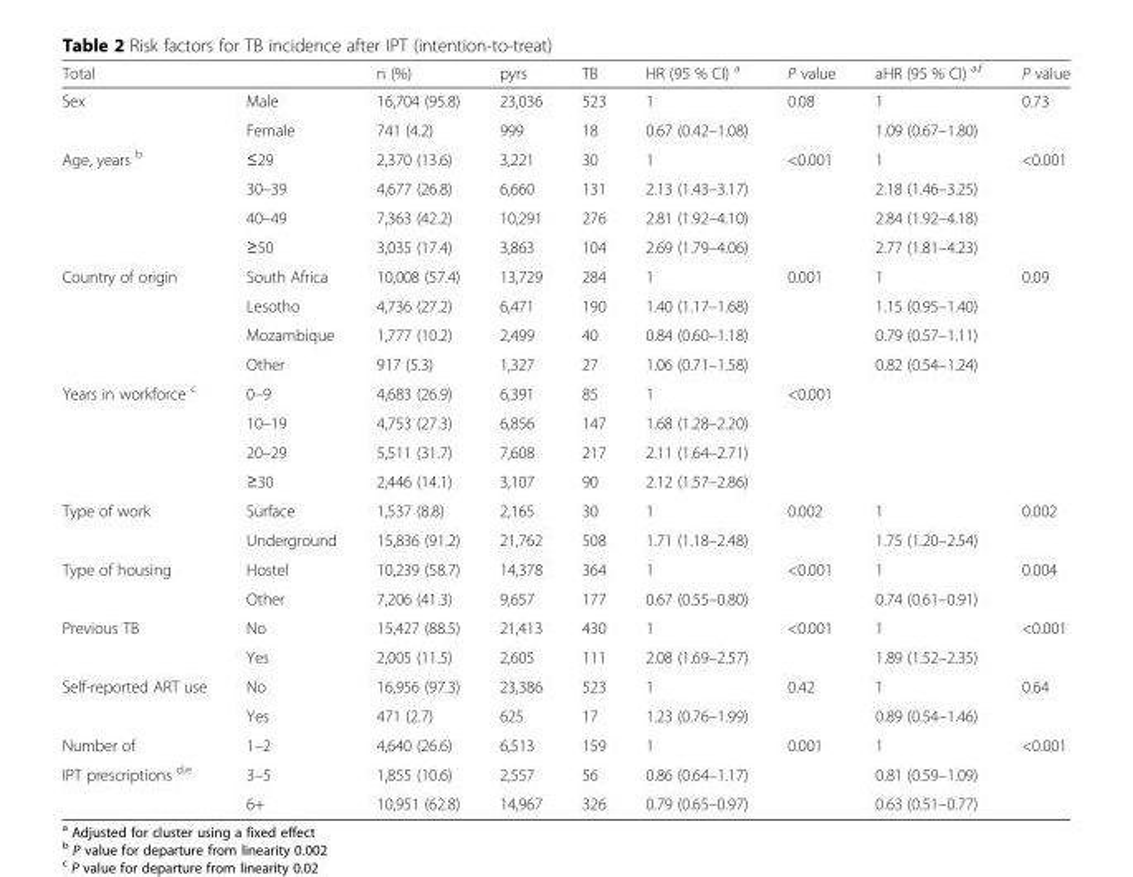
<table><thead><tr><td>Total</td><td></td><td>n (%)</td><td>pyrs</td><td>TB</td><td>HR (95 % CI) <sup>a</sup></td><td>P value</td><td>aHR (95 % CI) <sup>a,f</sup></td><td>P value</td></tr></thead><tbody><tr><td rowspan="2">Sex</td><td>Male</td><td>16,704 (95.8)</td><td>23,036</td><td>523</td><td>1</td><td>0.08</td><td>1</td><td>0.73</td></tr><tr><td>Female</td><td>741 (4.2)</td><td>999</td><td>18</td><td>0.67 (0.42–1.08)</td><td></td><td>1.09 (0.67–1.80)</td><td></td></tr><tr><td rowspan="4">Age, years <sup>b</sup></td><td>≤29</td><td>2,370 (13.6)</td><td>3,221</td><td>30</td><td>1</td><td>&lt;0.001</td><td>1</td><td>&lt;0.001</td></tr><tr><td>30–39</td><td>4,677 (26.8)</td><td>6,660</td><td>131</td><td>2.13 (1.43–3.17)</td><td></td><td>2.18 (1.46–3.25)</td><td></td></tr><tr><td>40–49</td><td>7,363 (42.2)</td><td>10,291</td><td>276</td><td>2.81 (1.92–4.10)</td><td></td><td>2.84 (1.92–4.18)</td><td></td></tr><tr><td>≥50</td><td>3,035 (17.4)</td><td>3,863</td><td>104</td><td>2.69 (1.79–4.06)</td><td></td><td>2.77 (1.81–4.23)</td><td></td></tr><tr><td rowspan="4">Country of origin</td><td>South Africa</td><td>10,008 (57.4)</td><td>13,729</td><td>284</td><td>1</td><td>0.001</td><td>1</td><td>0.09</td></tr><tr><td>Lesotho</td><td>4,736 (27.2)</td><td>6,471</td><td>190</td><td>1.40 (1.17–1.68)</td><td></td><td>1.15 (0.95–1.40)</td><td></td></tr><tr><td>Mozambique</td><td>1,777 (10.2)</td><td>2,499</td><td>40</td><td>0.84 (0.60–1.18)</td><td></td><td>0.79 (0.57–1.11)</td><td></td></tr><tr><td>Other</td><td>917 (5.3)</td><td>1,327</td><td>27</td><td>1.06 (0.71–1.58)</td><td></td><td>0.82 (0.54–1.24)</td><td></td></tr><tr><td rowspan="4">Years in workforce <sup>c</sup></td><td>0–9</td><td>4,683 (26.9)</td><td>6,391</td><td>85</td><td>1</td><td>&lt;0.001</td><td></td><td></td></tr><tr><td>10–19</td><td>4,753 (27.3)</td><td>6,856</td><td>147</td><td>1.68 (1.28–2.20)</td><td></td><td></td><td></td></tr><tr><td>20–29</td><td>5,511 (31.7)</td><td>7,608</td><td>217</td><td>2.11 (1.64–2.71)</td><td></td><td></td><td></td></tr><tr><td>≥30</td><td>2,446 (14.1)</td><td>3,107</td><td>90</td><td>2.12 (1.57–2.86)</td><td></td><td></td><td></td></tr><tr><td rowspan="2">Type of work</td><td>Surface</td><td>1,537 (8.8)</td><td>2,165</td><td>30</td><td>1</td><td>0.002</td><td>1</td><td>0.002</td></tr><tr><td>Underground</td><td>15,836 (91.2)</td><td>21,762</td><td>508</td><td>1.71 (1.18–2.48)</td><td></td><td>1.75 (1.20–2.54)</td><td></td></tr><tr><td rowspan="2">Type of housing</td><td>Hostel</td><td>10,239 (58.7)</td><td>14,378</td><td>364</td><td>1</td><td>&lt;0.001</td><td>1</td><td>0.004</td></tr><tr><td>Other</td><td>7,206 (41.3)</td><td>9,657</td><td>177</td><td>0.67 (0.55–0.80)</td><td></td><td>0.74 (0.61–0.91)</td><td></td></tr><tr><td rowspan="2">Previous TB</td><td>No</td><td>15,427 (88.5)</td><td>21,413</td><td>430</td><td>1</td><td>&lt;0.001</td><td>1</td><td>&lt;0.001</td></tr><tr><td>Yes</td><td>2,005 (11.5)</td><td>2,605</td><td>111</td><td>2.08 (1.69–2.57)</td><td></td><td>1.89 (1.52–2.35)</td><td></td></tr><tr><td rowspan="2">Self-reported ART use</td><td>No</td><td>16,956 (97.3)</td><td>23,386</td><td>523</td><td>1</td><td>0.42</td><td>1</td><td>0.64</td></tr><tr><td>Yes</td><td>471 (2.7)</td><td>625</td><td>17</td><td>1.23 (0.76–1.99)</td><td></td><td>0.89 (0.54–1.46)</td><td></td></tr><tr><td>Number of</td><td>1–2</td><td>4,640 (26.6)</td><td>6,513</td><td>159</td><td>1</td><td>0.001</td><td>1</td><td>&lt;0.001</td></tr><tr><td rowspan="2">IPT prescriptions <sup>d,e</sup></td><td>3–5</td><td>1,855 (10.6)</td><td>2,557</td><td>56</td><td>0.86 (0.64–1.17)</td><td></td><td>0.81 (0.59–1.09)</td><td></td></tr><tr><td>6+</td><td>10,951 (62.8)</td><td>14,967</td><td>326</td><td>0.79 (0.65–0.97)</td><td></td><td>0.63 (0.51–0.77)</td><td></td></tr></tbody></table>